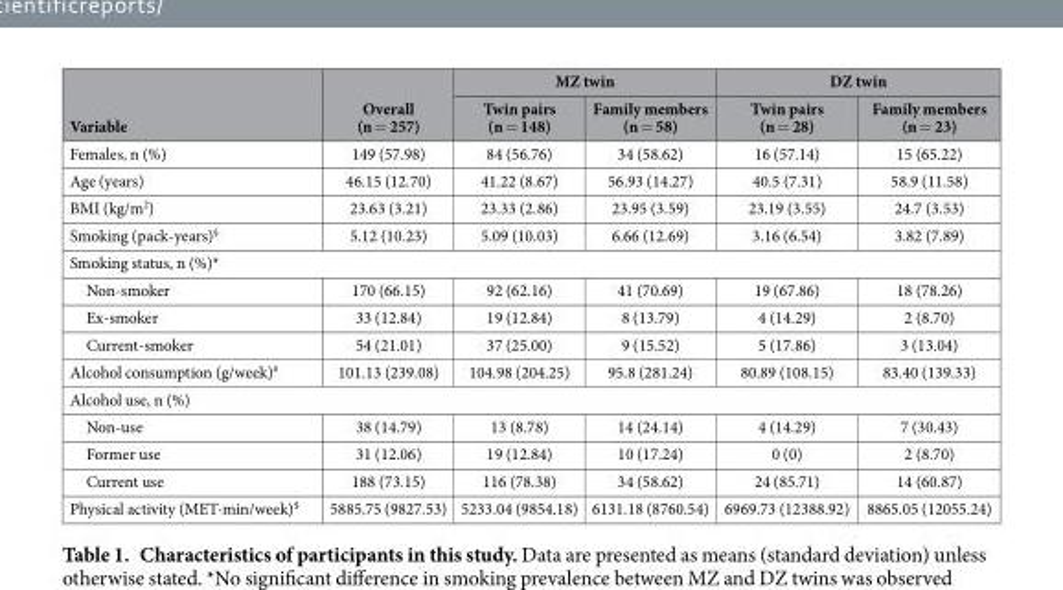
<table><thead><tr><td rowspan="2">Variable</td><td rowspan="2">Overall (n = 257)</td><td colspan="2">MZ twin</td><td colspan="2">DZ twin</td></tr><tr><td>Twin pairs (n = 148)</td><td>Family members (n = 58)</td><td>Twin pairs (n = 28)</td><td>Family members (n = 23)</td></tr></thead><tbody><tr><td>Females, n (%)</td><td>149 (57.98)</td><td>84 (56.76)</td><td>34 (58.62)</td><td>16 (57.14)</td><td>15 (65.22)</td></tr><tr><td>Age (years)</td><td>46.15 (12.70)</td><td>41.22 (8.67)</td><td>56.93 (14.27)</td><td>40.5 (7.31)</td><td>58.9 (11.58)</td></tr><tr><td>BMI (kg/m<sup>2</sup>)</td><td>23.63 (3.21)</td><td>23.33 (2.86)</td><td>23.95 (3.59)</td><td>23.19 (3.55)</td><td>24.7 (3.53)</td></tr><tr><td>Smoking (pack-years)<sup>§</sup></td><td>5.12 (10.23)</td><td>5.09 (10.03)</td><td>6.66 (12.69)</td><td>3.16 (6.54)</td><td>3.82 (7.89)</td></tr><tr><td colspan="6">Smoking status, n (%)*</td></tr><tr><td>Non-smoker</td><td>170 (66.15)</td><td>92 (62.16)</td><td>41 (70.69)</td><td>19 (67.86)</td><td>18 (78.26)</td></tr><tr><td>Ex-smoker</td><td>33 (12.84)</td><td>19 (12.84)</td><td>8 (13.79)</td><td>4 (14.29)</td><td>2 (8.70)</td></tr><tr><td>Current-smoker</td><td>54 (21.01)</td><td>37 (25.00)</td><td>9 (15.52)</td><td>5 (17.86)</td><td>3 (13.04)</td></tr><tr><td>Alcohol consumption (g/week)<sup>#</sup></td><td>101.13 (239.08)</td><td>104.98 (204.25)</td><td>95.8 (281.24)</td><td>80.89 (108.15)</td><td>83.40 (139.33)</td></tr><tr><td colspan="6">Alcohol use, n (%)</td></tr><tr><td>Non-use</td><td>38 (14.79)</td><td>13 (8.78)</td><td>14 (24.14)</td><td>4 (14.29)</td><td>7 (30.43)</td></tr><tr><td>Former use</td><td>31 (12.06)</td><td>19 (12.84)</td><td>10 (17.24)</td><td>0 (0)</td><td>2 (8.70)</td></tr><tr><td>Current use</td><td>188 (73.15)</td><td>116 (78.38)</td><td>34 (58.62)</td><td>24 (85.71)</td><td>14 (60.87)</td></tr><tr><td>Physical activity (MET∙min/week)<sup>$</sup></td><td>5885.75 (9827.53)</td><td>5233.04 (9854.18)</td><td>6131.18 (8760.54)</td><td>6969.73 (12388.92)</td><td>8865.05 (12055.24)</td></tr></tbody></table>